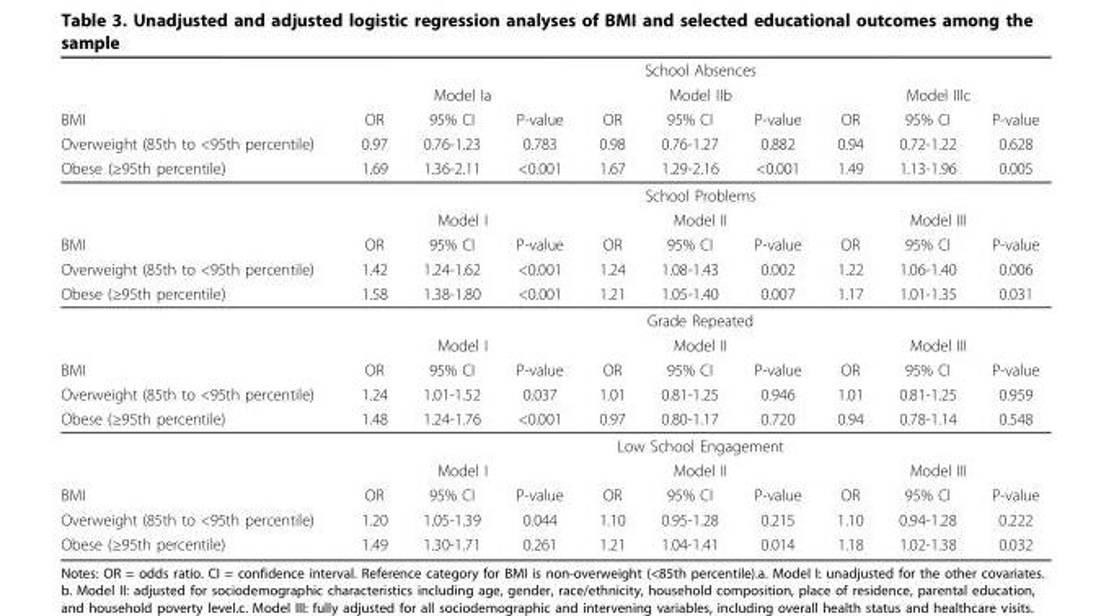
<table><thead><tr><td rowspan="5">BMI Overweight (85th to &lt;95th percentile) Obese (≥95th percentile)</td><td colspan="9">School Absences</td></tr><tr><td colspan="3">Model Ia</td><td colspan="3">Model IIb</td><td colspan="3">Model IIIc</td></tr><tr><td rowspan="3">OR 0.97 1.69</td><td rowspan="3">95% CI 0.76-1.23 1.36-2.11</td><td rowspan="3">P-value 0.783 &lt;0.001</td><td rowspan="3">OR 0.98 1.67</td><td rowspan="3">95% CI 0.76-1.27 1.29-2.16</td><td rowspan="3">P-value 0.882 &lt;0.001</td><td rowspan="3">OR 0.94 1.49</td><td rowspan="3">95% CI 0.72-1.22 1.13-1.96</td><td rowspan="3">P-value 0.628 0.005</td></tr><tr></tr><tr></tr></thead><tbody><tr><td></td><td colspan="9">School Problems</td></tr><tr><td></td><td colspan="3">Model I</td><td colspan="3">Model II</td><td colspan="3">Model III</td></tr><tr><td>BMI</td><td>OR</td><td>95% CI</td><td>P-value</td><td>OR</td><td>95% CI</td><td>P-value</td><td>OR</td><td>95% CI</td><td>P-value</td></tr><tr><td>Overweight (85th to &lt;95th percentile)</td><td>1.42</td><td>1.24-1.62</td><td>&lt;0.001</td><td>1.24</td><td>1.08-1.43</td><td>0.002</td><td>1.22</td><td>1.06-1.40</td><td>0.006</td></tr><tr><td rowspan="3">Obese (≥95th percentile)</td><td>1.58</td><td>1.38-1.80</td><td>&lt;0.001</td><td>1.21</td><td>1.05-1.40</td><td>0.007</td><td>1.17</td><td>1.01-1.35</td><td>0.031</td></tr><tr><td colspan="9">Grade Repeated</td></tr><tr><td colspan="3">Model I</td><td colspan="3">Model II</td><td colspan="3">Model III</td></tr><tr><td>BMI</td><td>OR</td><td>95% CI</td><td>P-value</td><td>OR</td><td>95% CI</td><td>P-value</td><td>OR</td><td>95% CI</td><td>P-value</td></tr><tr><td>Overweight (85th to &lt;95th percentile)</td><td>1.24</td><td>1.01-1.52</td><td>0.037</td><td>1.01</td><td>0.81-1.25</td><td>0.946</td><td>1.01</td><td>0.81-1.25</td><td>0.959</td></tr><tr><td rowspan="3">Obese (≥95th percentile)</td><td>1.48</td><td>1.24-1.76</td><td>&lt;0.001</td><td>0.97</td><td>0.80-1.17</td><td>0.720</td><td>0.94</td><td>0.78-1.14</td><td>0.548</td></tr><tr><td colspan="9">Low School Engagement</td></tr><tr><td colspan="3">Model I</td><td colspan="3">Model II</td><td colspan="3">Model III</td></tr><tr><td>BMI</td><td>OR</td><td>95% CI</td><td>P-value</td><td>OR</td><td>95% CI</td><td>P-value</td><td>OR</td><td>95% CI</td><td>P-value</td></tr><tr><td>Overweight (85th to &lt;95th percentile)</td><td>1.20</td><td>1.05-1.39</td><td>0.044</td><td>1.10</td><td>0.95-1.28</td><td>0.215</td><td>1.10</td><td>0.94-1.28</td><td>0.222</td></tr><tr><td>Obese (≥95th percentile)</td><td>1.49</td><td>1.30-1.71</td><td>0.261</td><td>1.21</td><td>1.04-1.41</td><td>0.014</td><td>1.18</td><td>1.02-1.38</td><td>0.032</td></tr></tbody></table>